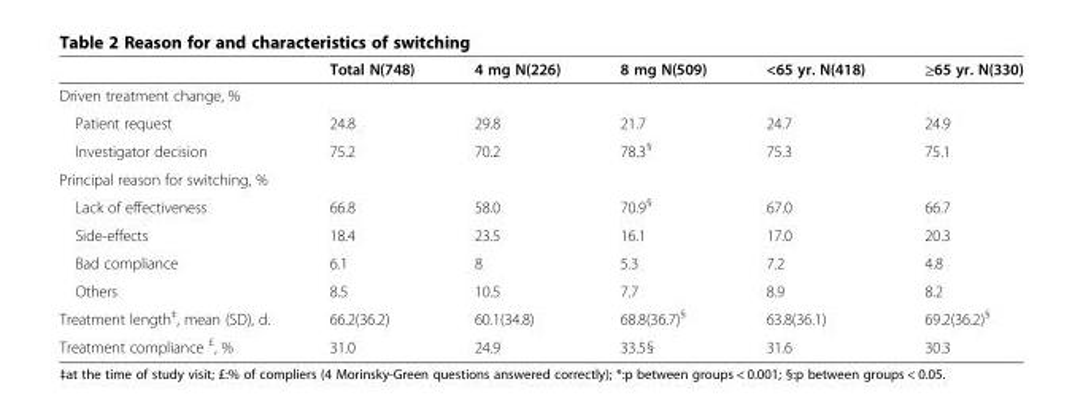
<table><thead><tr><td></td><td>Total N(748)</td><td>4 mg N(226)</td><td>8 mg N(509)</td><td>&lt;65 yr. N(418)</td><td>≥65 yr. N(330)</td></tr></thead><tbody><tr><td colspan="6">Driven treatment change, %</td></tr><tr><td>Patient request</td><td>24.8</td><td>29.8</td><td>21.7</td><td>24.7</td><td>24.9</td></tr><tr><td>Investigator decision</td><td>75.2</td><td>70.2</td><td>78.3<sup>§</sup></td><td>75.3</td><td>75.1</td></tr><tr><td colspan="6">Principal reason for switching, %</td></tr><tr><td>Lack of effectiveness</td><td>66.8</td><td>58.0</td><td>70.9<sup>§</sup></td><td>67.0</td><td>66.7</td></tr><tr><td>Side-effects</td><td>18.4</td><td>23.5</td><td>16.1</td><td>17.0</td><td>20.3</td></tr><tr><td>Bad compliance</td><td>6.1</td><td>8</td><td>5.3</td><td>7.2</td><td>4.8</td></tr><tr><td>Others</td><td>8.5</td><td>10.5</td><td>7.7</td><td>8.9</td><td>8.2</td></tr><tr><td>Treatment length<sup>‡</sup>, mean (SD), d.</td><td>66.2(36.2)</td><td>60.1(34.8)</td><td>68.8(36.7)<sup>§</sup></td><td>63.8(36.1)</td><td>69.2(36.2)<sup>§</sup></td></tr><tr><td>Treatment compliance <sup>£</sup>, %</td><td>31.0</td><td>24.9</td><td>33.5§</td><td>31.6</td><td>30.3</td></tr></tbody></table>